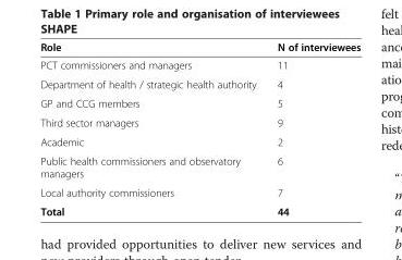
<table><thead><tr><td>Role</td><td>N of interviewees</td></tr></thead><tbody><tr><td>PCT commissioners and managers</td><td>11</td></tr><tr><td>Department of health / strategic health authority</td><td>4</td></tr><tr><td>GP and CCG members</td><td>5</td></tr><tr><td>Third sector managers</td><td>9</td></tr><tr><td>Academic</td><td>2</td></tr><tr><td>Public health commissioners and observatory managers</td><td>6</td></tr><tr><td>Local authority commissioners</td><td>7</td></tr><tr><td>Total</td><td>44</td></tr></tbody></table>